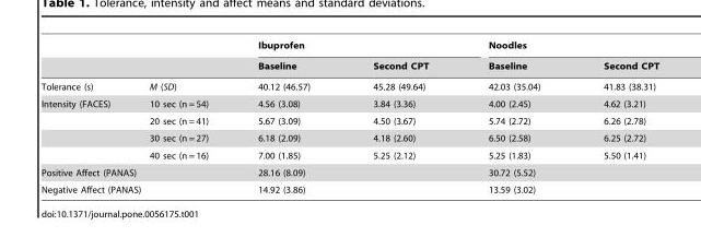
<table><thead><tr><td rowspan="2"></td><td rowspan="2"></td><td colspan="2">Ibuprofen</td><td colspan="2">Noodles</td></tr><tr><td>Baseline</td><td>Second CPT</td><td>Baseline</td><td>Second CPT</td></tr></thead><tbody><tr><td>Tolerance (s)</td><td>M (SD)</td><td>40.12 (46.57)</td><td>45.28 (49.64)</td><td>42.03 (35.04)</td><td>41.83 (38.31)</td></tr><tr><td rowspan="4">Intensity (FACES)</td><td>10 sec (n = 54)</td><td>4.56 (3.08)</td><td>3.84 (3.36)</td><td>4.00 (2.45)</td><td>4.62 (3.21)</td></tr><tr><td>20 sec (n = 41)</td><td>5.67 (3.09)</td><td>4.50 (3.67)</td><td>5.74 (2.72)</td><td>6.26 (2.78)</td></tr><tr><td>30 sec (n = 27)</td><td>6.18 (2.09)</td><td>4.18 (2.60)</td><td>6.50 (2.58)</td><td>6.25 (2.72)</td></tr><tr><td>40 sec (n = 16)</td><td>7.00 (1.85)</td><td>5.25 (2.12)</td><td>5.25 (1.83)</td><td>5.50 (1.41)</td></tr><tr><td colspan="2">Positive Affect (PANAS)</td><td colspan="2">28.16 (8.09)</td><td colspan="2">30.72 (5.52)</td></tr><tr><td colspan="2">Negative Affect (PANAS)</td><td colspan="2">14.92 (3.86)</td><td colspan="2">13.59 (3.02)</td></tr></tbody></table>